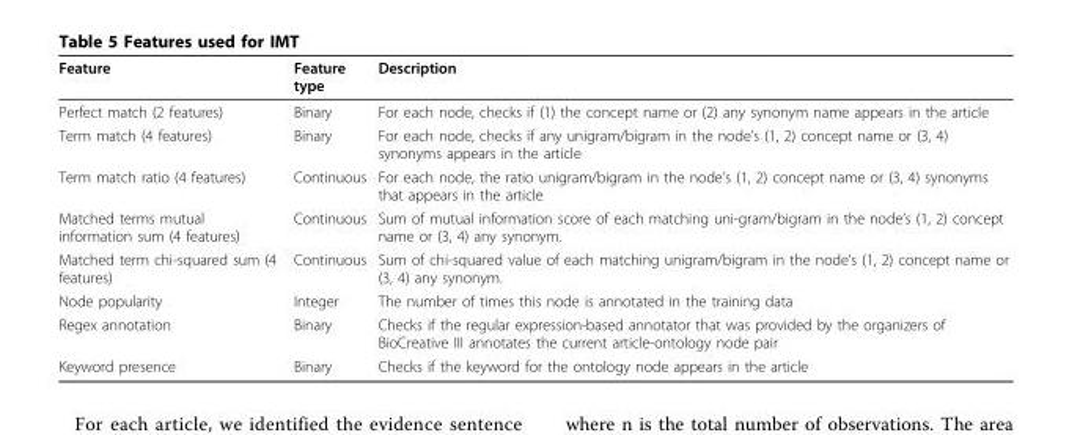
<table><thead><tr><td>Feature</td><td>Feature type</td><td>Description</td></tr></thead><tbody><tr><td>Perfect match (2 features)</td><td>Binary</td><td>For each node, checks if (1) the concept name or (2) any synonym name appears in the article</td></tr><tr><td>Term match (4 features)</td><td>Binary</td><td>For each node, checks if any unigram/bigram in the node’s (1, 2) concept name or (3, 4) synonyms appears in the article</td></tr><tr><td>Term match ratio (4 features)</td><td>Continuous</td><td>For each node, the ratio unigram/bigram in the node’s (1, 2) concept name or (3, 4) synonyms that appears in the article</td></tr><tr><td>Matched terms mutual information sum (4 features)</td><td>Continuous</td><td>Sum of mutual information score of each matching uni-gram/bigram in the node’s (1, 2) concept name or (3, 4) any synonym.</td></tr><tr><td>Matched term chi-squared sum (4 features)</td><td>Continuous</td><td>Sum of chi-squared value of each matching unigram/bigram in the node’s (1, 2) concept name or (3, 4) any synonym.</td></tr><tr><td>Node popularity</td><td>Integer</td><td>The number of times this node is annotated in the training data</td></tr><tr><td>Regex annotation</td><td>Binary</td><td>Checks if the regular expression-based annotator that was provided by the organizers of BioCreative III annotates the current article-ontology node pair</td></tr><tr><td>Keyword presence</td><td>Binary</td><td>Checks if the keyword for the ontology node appears in the article</td></tr></tbody></table>